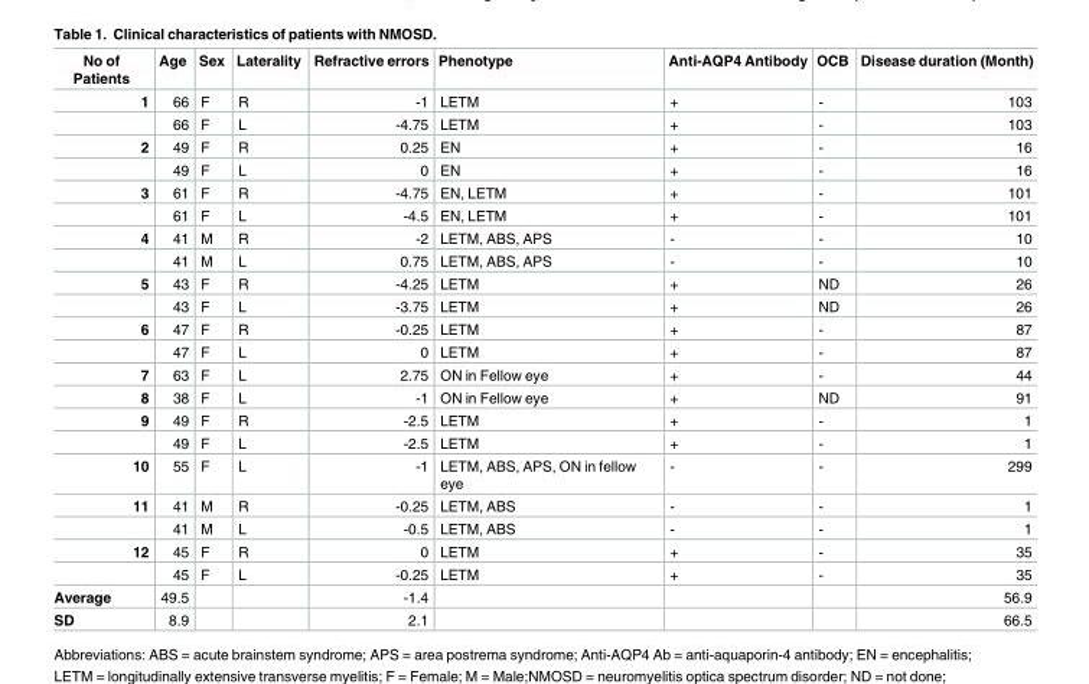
<table><thead><tr><td>No of Patients</td><td>Age</td><td>Sex</td><td>Laterality</td><td>Refractive errors</td><td>Phenotype</td><td>Anti-AQP4 Antibody</td><td>OCB</td><td>Disease duration (Month)</td></tr></thead><tbody><tr><td rowspan="2">1</td><td>66</td><td>F</td><td>R</td><td>-1</td><td>LETM</td><td>+</td><td>-</td><td>103</td></tr><tr><td>66</td><td>F</td><td>L</td><td>-4.75</td><td>LETM</td><td>+</td><td>-</td><td>103</td></tr><tr><td rowspan="2">2</td><td>49</td><td>F</td><td>R</td><td>0.25</td><td>EN</td><td>+</td><td>-</td><td>16</td></tr><tr><td>49</td><td>F</td><td>L</td><td>0</td><td>EN</td><td>+</td><td>-</td><td>16</td></tr><tr><td rowspan="2">3</td><td>61</td><td>F</td><td>R</td><td>-4.75</td><td>EN, LETM</td><td>+</td><td>-</td><td>101</td></tr><tr><td>61</td><td>F</td><td>L</td><td>-4.5</td><td>EN, LETM</td><td>+</td><td>-</td><td>101</td></tr><tr><td rowspan="2">4</td><td>41</td><td>M</td><td>R</td><td>-2</td><td>LETM, ABS, APS</td><td>-</td><td>-</td><td>10</td></tr><tr><td>41</td><td>M</td><td>L</td><td>0.75</td><td>LETM, ABS, APS</td><td>-</td><td>-</td><td>10</td></tr><tr><td rowspan="2">5</td><td>43</td><td>F</td><td>R</td><td>-4.25</td><td>LETM</td><td>+</td><td>ND</td><td>26</td></tr><tr><td>43</td><td>F</td><td>L</td><td>-3.75</td><td>LETM</td><td>+</td><td>ND</td><td>26</td></tr><tr><td rowspan="2">6</td><td>47</td><td>F</td><td>R</td><td>-0.25</td><td>LETM</td><td>+</td><td>-</td><td>87</td></tr><tr><td>47</td><td>F</td><td>L</td><td>0</td><td>LETM</td><td>+</td><td>-</td><td>87</td></tr><tr><td>7</td><td>63</td><td>F</td><td>L</td><td>2.75</td><td>ON in Fellow eye</td><td>+</td><td>-</td><td>44</td></tr><tr><td>8</td><td>38</td><td>F</td><td>L</td><td>-1</td><td>ON in Fellow eye</td><td>+</td><td>ND</td><td>91</td></tr><tr><td rowspan="2">9</td><td>49</td><td>F</td><td>R</td><td>-2.5</td><td>LETM</td><td>+</td><td>-</td><td>1</td></tr><tr><td>49</td><td>F</td><td>L</td><td>-2.5</td><td>LETM</td><td>+</td><td>-</td><td>1</td></tr><tr><td>10</td><td>55</td><td>F</td><td>L</td><td>-1</td><td>LETM, ABS, APS, ON in fellow eye</td><td>-</td><td>-</td><td>299</td></tr><tr><td rowspan="2">11</td><td>41</td><td>M</td><td>R</td><td>-0.25</td><td>LETM, ABS</td><td>-</td><td>-</td><td>1</td></tr><tr><td>41</td><td>M</td><td>L</td><td>-0.5</td><td>LETM, ABS</td><td>-</td><td>-</td><td>1</td></tr><tr><td rowspan="2">12</td><td>45</td><td>F</td><td>R</td><td>0</td><td>LETM</td><td>+</td><td>-</td><td>35</td></tr><tr><td>45</td><td>F</td><td>L</td><td>-0.25</td><td>LETM</td><td>+</td><td>-</td><td>35</td></tr><tr><td>Average</td><td>49.5</td><td></td><td></td><td>-1.4</td><td></td><td></td><td></td><td>56.9</td></tr><tr><td>SD</td><td>8.9</td><td></td><td></td><td>2.1</td><td></td><td></td><td></td><td>66.5</td></tr></tbody></table>